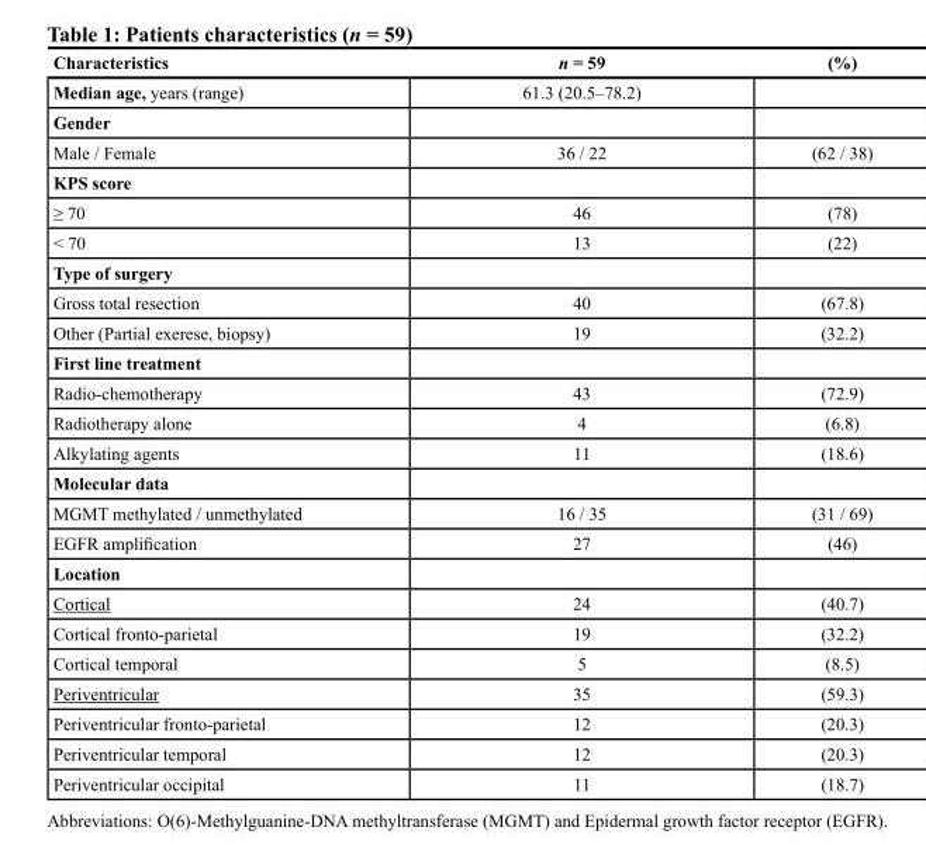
<table><thead><tr><td>Characteristics</td><td>n = 59</td><td>(%)</td></tr></thead><tbody><tr><td>Median age, years (range)</td><td>61.3 (20.5–78.2)</td><td></td></tr><tr><td colspan="3">Gender</td></tr><tr><td>Male / Female</td><td>36 / 22</td><td>(62 / 38)</td></tr><tr><td colspan="3">KPS score</td></tr><tr><td>≥ 70</td><td>46</td><td>(78)</td></tr><tr><td>&lt; 70</td><td>13</td><td>(22)</td></tr><tr><td colspan="3">Type of surgery</td></tr><tr><td>Gross total resection</td><td>40</td><td>(67.8)</td></tr><tr><td>Other (Partial exerese, biopsy)</td><td>19</td><td>(32.2)</td></tr><tr><td colspan="3">First line treatment</td></tr><tr><td>Radio-chemotherapy</td><td>43</td><td>(72.9)</td></tr><tr><td>Radiotherapy alone</td><td>4</td><td>(6.8)</td></tr><tr><td>Alkylating agents</td><td>11</td><td>(18.6)</td></tr><tr><td colspan="3">Molecular data</td></tr><tr><td>MGMT methylated / unmethylated</td><td>16 / 35</td><td>(31 / 69)</td></tr><tr><td>EGFR amplification</td><td>27</td><td>(46)</td></tr><tr><td colspan="3">Location</td></tr><tr><td>Cortical</td><td>24</td><td>(40.7)</td></tr><tr><td>Cortical fronto-parietal</td><td>19</td><td>(32.2)</td></tr><tr><td>Cortical temporal</td><td>5</td><td>(8.5)</td></tr><tr><td>Periventricular</td><td>35</td><td>(59.3)</td></tr><tr><td>Periventricular fronto-parietal</td><td>12</td><td>(20.3)</td></tr><tr><td>Periventricular temporal</td><td>12</td><td>(20.3)</td></tr><tr><td>Periventricular occipital</td><td>11</td><td>(18.7)</td></tr></tbody></table>